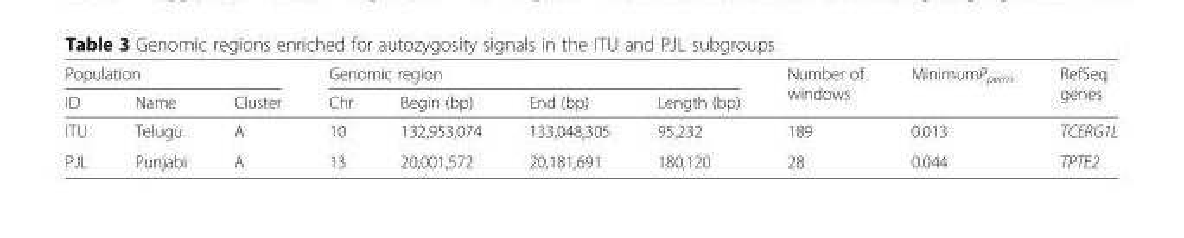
<table><thead><tr><td colspan="3">Population</td><td colspan="4">Genomic region</td><td rowspan="2">Number of windows</td><td rowspan="2">MinimumP<sub>perm</sub></td><td rowspan="2">RefSeq genes</td></tr><tr><td>ID</td><td>Name</td><td>Cluster</td><td>Chr</td><td>Begin (bp)</td><td>End (bp)</td><td>Length (bp)</td></tr></thead><tbody><tr><td>ITU</td><td>Telugu</td><td>A</td><td>10</td><td>132,953,074</td><td>133,048,305</td><td>95,232</td><td>189</td><td>0.013</td><td>TCERG1L</td></tr><tr><td>PJL</td><td>Punjabi</td><td>A</td><td>13</td><td>20,001,572</td><td>20,181,691</td><td>180,120</td><td>28</td><td>0.044</td><td>TPTE2</td></tr></tbody></table>